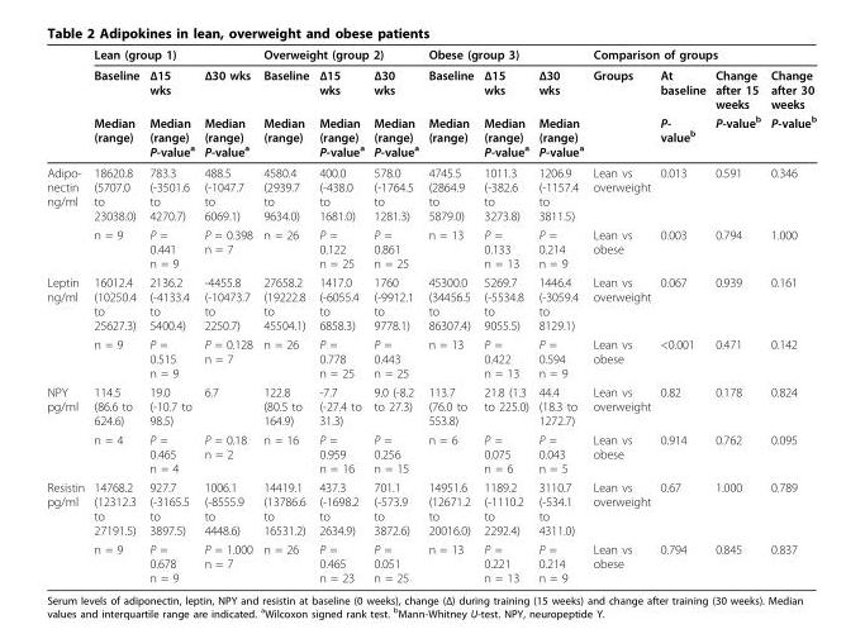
<table><thead><tr><td rowspan="3"></td><td colspan="3">Lean (group 1)</td><td colspan="3">Overweight (group 2)</td><td colspan="3">Obese (group 3)</td><td colspan="4">Comparison of groups</td></tr><tr><td rowspan="2">Baseline Median (range)</td><td rowspan="2">Δ15 wks Median (range) P-valuea</td><td rowspan="2">Δ30 wks Median (range) P-valuea</td><td rowspan="2">Baseline Median (range)</td><td rowspan="2">Δ15 wks Median (range) P-valuea</td><td rowspan="2">Δ30 wks Median (range) P-valuea</td><td rowspan="2">Baseline Median (range)</td><td rowspan="2">Δ15 wks Median (range) P-valuea</td><td rowspan="2">Δ30 wks Median (range) P-valuea</td><td rowspan="2">Groups</td><td rowspan="2">At baseline P- value<sup>b</sup></td><td rowspan="2">Change after 15 weeks P-value<sup>b</sup></td><td rowspan="2">Change after 30 weeks P-value<sup>b</sup></td></tr><tr></tr></thead><tbody><tr><td rowspan="2">Adipo- nectin ng/ml</td><td>18620.8 (5707.0 to 23038.0)</td><td>783.3 (-3501.6 to 4270.7)</td><td>488.5 (-1047.7 to 6069.1)</td><td>4580.4 (2939.7 to 9634.0)</td><td>400.0 (-438.0 to 1681.0)</td><td>578.0 (-1764.5 to 1281.3)</td><td>4745.5 (2864.9 to 5879.0)</td><td>1011.3 (-382.6 to 3273.8)</td><td>1206.9 (-1157.4 to 3811.5)</td><td>Lean vs overweight</td><td>0.013</td><td>0.591</td><td>0.346</td></tr><tr><td>n = 9</td><td>P = 0.441 n = 9</td><td>P = 0.398 n = 7</td><td>n = 26</td><td>P = 0.122 n = 25</td><td>P = 0.861 n = 25</td><td>n = 13</td><td>P = 0.133 n = 13</td><td>P = 0.214 n = 9</td><td>Lean vs obese</td><td>0.003</td><td>0.794</td><td>1.000</td></tr><tr><td rowspan="2">Leptin ng/ml</td><td>16012.4 (10250.4 to 25627.3)</td><td>2136.2 (-4133.4 to 5400.4)</td><td>-4455.8 (-10473.7 to 2250.7)</td><td>27658.2 (19222.8 to 45504.1)</td><td>1417.0 (-6055.4 to 6858.3)</td><td>1760 (-9912.1 to 9778.1)</td><td>45300.0 (34456.5 to 86307.4)</td><td>5269.7 (-5534.8 to 9055.5)</td><td>1446.4 (-3059.4 to 8129.1)</td><td>Lean vs overweight</td><td>0.067</td><td>0.939</td><td>0.161</td></tr><tr><td>n = 9</td><td>P = 0.515 n = 9</td><td>P = 0.128 n = 7</td><td>n = 26</td><td>P = 0.778 n = 25</td><td>P = 0.443 n = 25</td><td>n = 13</td><td>P = 0.422 n = 13</td><td>P = 0.594 n = 9</td><td>Lean vs obese</td><td>&lt;0.001</td><td>0.471</td><td>0.142</td></tr><tr><td rowspan="2">NPY pg/ml</td><td>114.5 (86.6 to 624.6)</td><td>19.0 (-10.7 to 98.5)</td><td>6.7</td><td>122.8 (80.5 to 164.9)</td><td>-7.7 (-27.4 to 31.3)</td><td>9.0 (-8.2 to 27.3)</td><td>113.7 (76.0 to 553.8)</td><td>21.8 (1.3 to 225.0)</td><td>44.4 (18.3 to 1272.7)</td><td>Lean vs overweight</td><td>0.82</td><td>0.178</td><td>0.824</td></tr><tr><td>n = 4</td><td>P = 0.465 n = 4</td><td>P = 0.18 n = 2</td><td>n = 16</td><td>P = 0.959 n = 16</td><td>P = 0.256 n = 15</td><td>n = 6</td><td>P = 0.075 n = 6</td><td>P = 0.043 n = 5</td><td>Lean vs obese</td><td>0.914</td><td>0.762</td><td>0.095</td></tr><tr><td rowspan="2">Resistin pg/ml</td><td>14768.2 (12312.3 to 27191.5)</td><td>927.7 (-3165.5 to 3897.5)</td><td>1006.1 (-8555.9 to 4448.6)</td><td>14419.1 (13786.6 to 16531.2)</td><td>437.3 (-1698.2 to 2634.9)</td><td>701.1 (-573.9 to 3872.6)</td><td>14951.6 (12671.2 to 20016.0)</td><td>1189.2 (-1110.2 to 2292.4)</td><td>3110.7 (-534.1 to 4311.0)</td><td>Lean vs overweight</td><td>0.67</td><td>1.000</td><td>0.789</td></tr><tr><td>n = 9</td><td>P = 0.678 n = 9</td><td>P = 1.000 n = 7</td><td>n = 26</td><td>P = 0.465 n = 23</td><td>P = 0.051 n = 25</td><td>n = 13</td><td>P = 0.221 n = 13</td><td>P = 0.214 n = 9</td><td>Lean vs obese</td><td>0.794</td><td>0.845</td><td>0.837</td></tr></tbody></table>